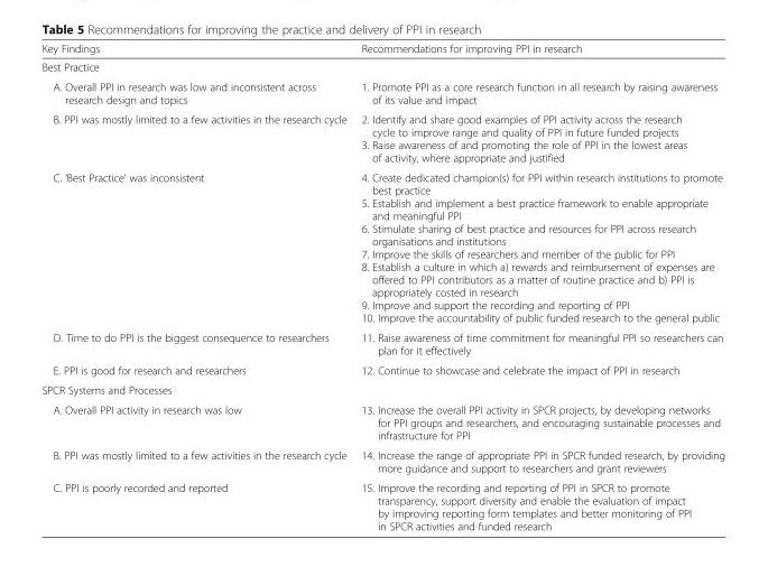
<table><thead><tr><td>Key Findings</td><td>Recommendations for improving PPI in research</td></tr></thead><tbody><tr><td colspan="2">Best Practice</td></tr><tr><td>A. Overall PPI in research was low and inconsistent across research design and topics</td><td>1. Promote PPI as a core research function in all research by raising awareness of its value and impact</td></tr><tr><td>B. PPI was mostly limited to a few activities in the research cycle</td><td>2. Identify and share good examples of PPI activity across the research cycle to improve range and quality of PPI in future funded projects 3. Raise awareness of and promoting the role of PPI in the lowest areas of activity, where appropriate and justified</td></tr><tr><td>C. ‘Best Practice’ was inconsistent</td><td>4. Create dedicated champion(s) for PPI within research institutions to promote best practice 5. Establish and implement a best practice framework to enable appropriate and meaningful PPI 6. Stimulate sharing of best practice and resources for PPI across research organisations and institutions 7. Improve the skills of researchers and member of the public for PPI 8. Establish a culture in which a) rewards and reimbursement of expenses are offered to PPI contributors as a matter of routine practice and b) PPI is appropriately costed in research 9. Improve and support the recording and reporting of PPI 10. Improve the accountability of public funded research to the general public</td></tr><tr><td>D. Time to do PPI is the biggest consequence to researchers</td><td>11. Raise awareness of time commitment for meaningful PPI so researchers can plan for it effectively</td></tr><tr><td>E. PPI is good for research and researchers</td><td>12. Continue to showcase and celebrate the impact of PPI in research</td></tr><tr><td colspan="2">SPCR Systems and Processes</td></tr><tr><td>A. Overall PPI activity in research was low</td><td>13. Increase the overall PPI activity in SPCR projects, by developing networks for PPI groups and researchers, and encouraging sustainable processes and infrastructure for PPI</td></tr><tr><td>B. PPI was mostly limited to a few activities in the research cycle</td><td>14. Increase the range of appropriate PPI in SPCR funded research, by providing more guidance and support to researchers and grant reviewers</td></tr><tr><td>C. PPI is poorly recorded and reported</td><td>15. Improve the recording and reporting of PPI in SPCR to promote transparency, support diversity and enable the evaluation of impact by improving reporting form templates and better monitoring of PPI in SPCR activities and funded research</td></tr></tbody></table>